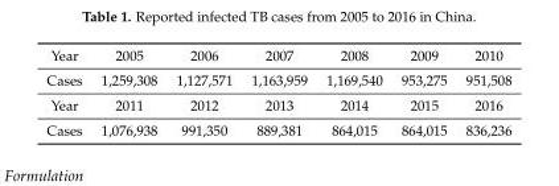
<table><tbody><tr><td>Year</td><td>2005</td><td>2006</td><td>2007</td><td>2008</td><td>2009</td><td>2010</td></tr><tr><td>Cases</td><td>1,259,308</td><td>1,127,571</td><td>1,163,959</td><td>1,169,540</td><td>953,275</td><td>951,508</td></tr><tr><td>Year</td><td>2011</td><td>2012</td><td>2013</td><td>2014</td><td>2015</td><td>2016</td></tr><tr><td>Cases</td><td>1,076,938</td><td>991,350</td><td>889,381</td><td>864,015</td><td>864,015</td><td>836,236</td></tr></tbody></table>